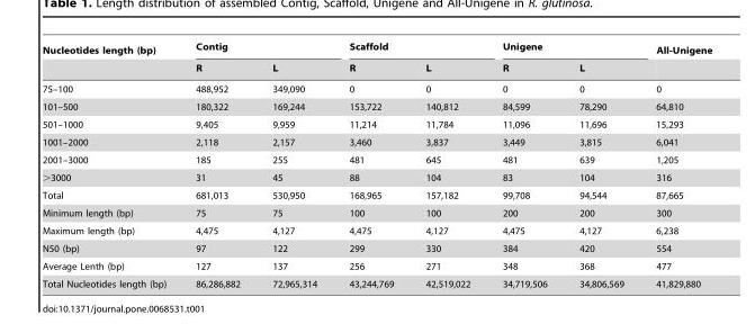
<table><thead><tr><td rowspan="2">Nucleotides length (bp)</td><td colspan="2">Contig</td><td colspan="2">Scaffold</td><td colspan="2">Unigene</td><td rowspan="2">All-Unigene</td></tr><tr><td>R</td><td>L</td><td>R</td><td>L</td><td>R</td><td>L</td></tr></thead><tbody><tr><td>75–100</td><td>488,952</td><td>349,090</td><td>0</td><td>0</td><td>0</td><td>0</td><td>0</td></tr><tr><td>101–500</td><td>180,322</td><td>169,244</td><td>153,722</td><td>140,812</td><td>84,599</td><td>78,290</td><td>64,810</td></tr><tr><td>501–1000</td><td>9,405</td><td>9,959</td><td>11,214</td><td>11,784</td><td>11,096</td><td>11,696</td><td>15,293</td></tr><tr><td>1001–2000</td><td>2,118</td><td>2,157</td><td>3,460</td><td>3,837</td><td>3,449</td><td>3,815</td><td>6,041</td></tr><tr><td>2001–3000</td><td>185</td><td>255</td><td>481</td><td>645</td><td>481</td><td>639</td><td>1,205</td></tr><tr><td>&gt;3000</td><td>31</td><td>45</td><td>88</td><td>104</td><td>83</td><td>104</td><td>316</td></tr><tr><td>Total</td><td>681,013</td><td>530,950</td><td>168,965</td><td>157,182</td><td>99,708</td><td>94,544</td><td>87,665</td></tr><tr><td>Minimum length (bp)</td><td>75</td><td>75</td><td>100</td><td>100</td><td>200</td><td>200</td><td>300</td></tr><tr><td>Maximum length (bp)</td><td>4,475</td><td>4,127</td><td>4,475</td><td>4,127</td><td>4,475</td><td>4,127</td><td>6,238</td></tr><tr><td>N50 (bp)</td><td>97</td><td>122</td><td>299</td><td>330</td><td>384</td><td>420</td><td>554</td></tr><tr><td>Average Lenth (bp)</td><td>127</td><td>137</td><td>256</td><td>271</td><td>348</td><td>368</td><td>477</td></tr><tr><td>Total Nucleotides length (bp)</td><td>86,286,882</td><td>72,965,314</td><td>43,244,769</td><td>42,519,022</td><td>34,719,506</td><td>34,806,569</td><td>41,829,880</td></tr></tbody></table>